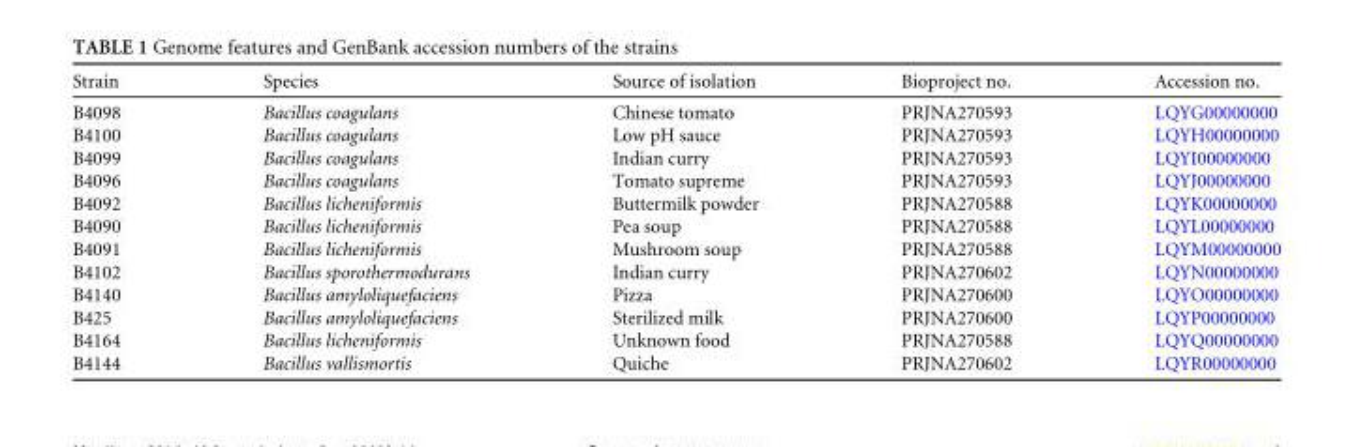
<table><thead><tr><td>Strain</td><td>Species</td><td>Source of isolation</td><td>Bioproject no.</td><td>Accession no.</td></tr></thead><tbody><tr><td>B4098</td><td>Bacillus coagulans</td><td>Chinese tomato</td><td>PRJNA270593</td><td>LQYG00000000</td></tr><tr><td>B4100</td><td>Bacillus coagulans</td><td>Low pH sauce</td><td>PRJNA270593</td><td>LQYH00000000</td></tr><tr><td>B4099</td><td>Bacillus coagulans</td><td>Indian curry</td><td>PRJNA270593</td><td>LQYI00000000</td></tr><tr><td>B4096</td><td>Bacillus coagulans</td><td>Tomato supreme</td><td>PRJNA270593</td><td>LQYJ00000000</td></tr><tr><td>B4092</td><td>Bacillus licheniformis</td><td>Buttermilk powder</td><td>PRJNA270588</td><td>LQYK00000000</td></tr><tr><td>B4090</td><td>Bacillus licheniformis</td><td>Pea soup</td><td>PRJNA270588</td><td>LQYL00000000</td></tr><tr><td>B4091</td><td>Bacillus licheniformis</td><td>Mushroom soup</td><td>PRJNA270588</td><td>LQYM00000000</td></tr><tr><td>B4102</td><td>Bacillus sporothermodurans</td><td>Indian curry</td><td>PRJNA270602</td><td>LQYN00000000</td></tr><tr><td>B4140</td><td>Bacillus amyloliquefaciens</td><td>Pizza</td><td>PRJNA270600</td><td>LQYO00000000</td></tr><tr><td>B425</td><td>Bacillus amyloliquefaciens</td><td>Sterilized milk</td><td>PRJNA270600</td><td>LQYP00000000</td></tr><tr><td>B4164</td><td>Bacillus licheniformis</td><td>Unknown food</td><td>PRJNA270588</td><td>LQYQ00000000</td></tr><tr><td>B4144</td><td>Bacillus vallismortis</td><td>Quiche</td><td>PRJNA270602</td><td>LQYR00000000</td></tr></tbody></table>